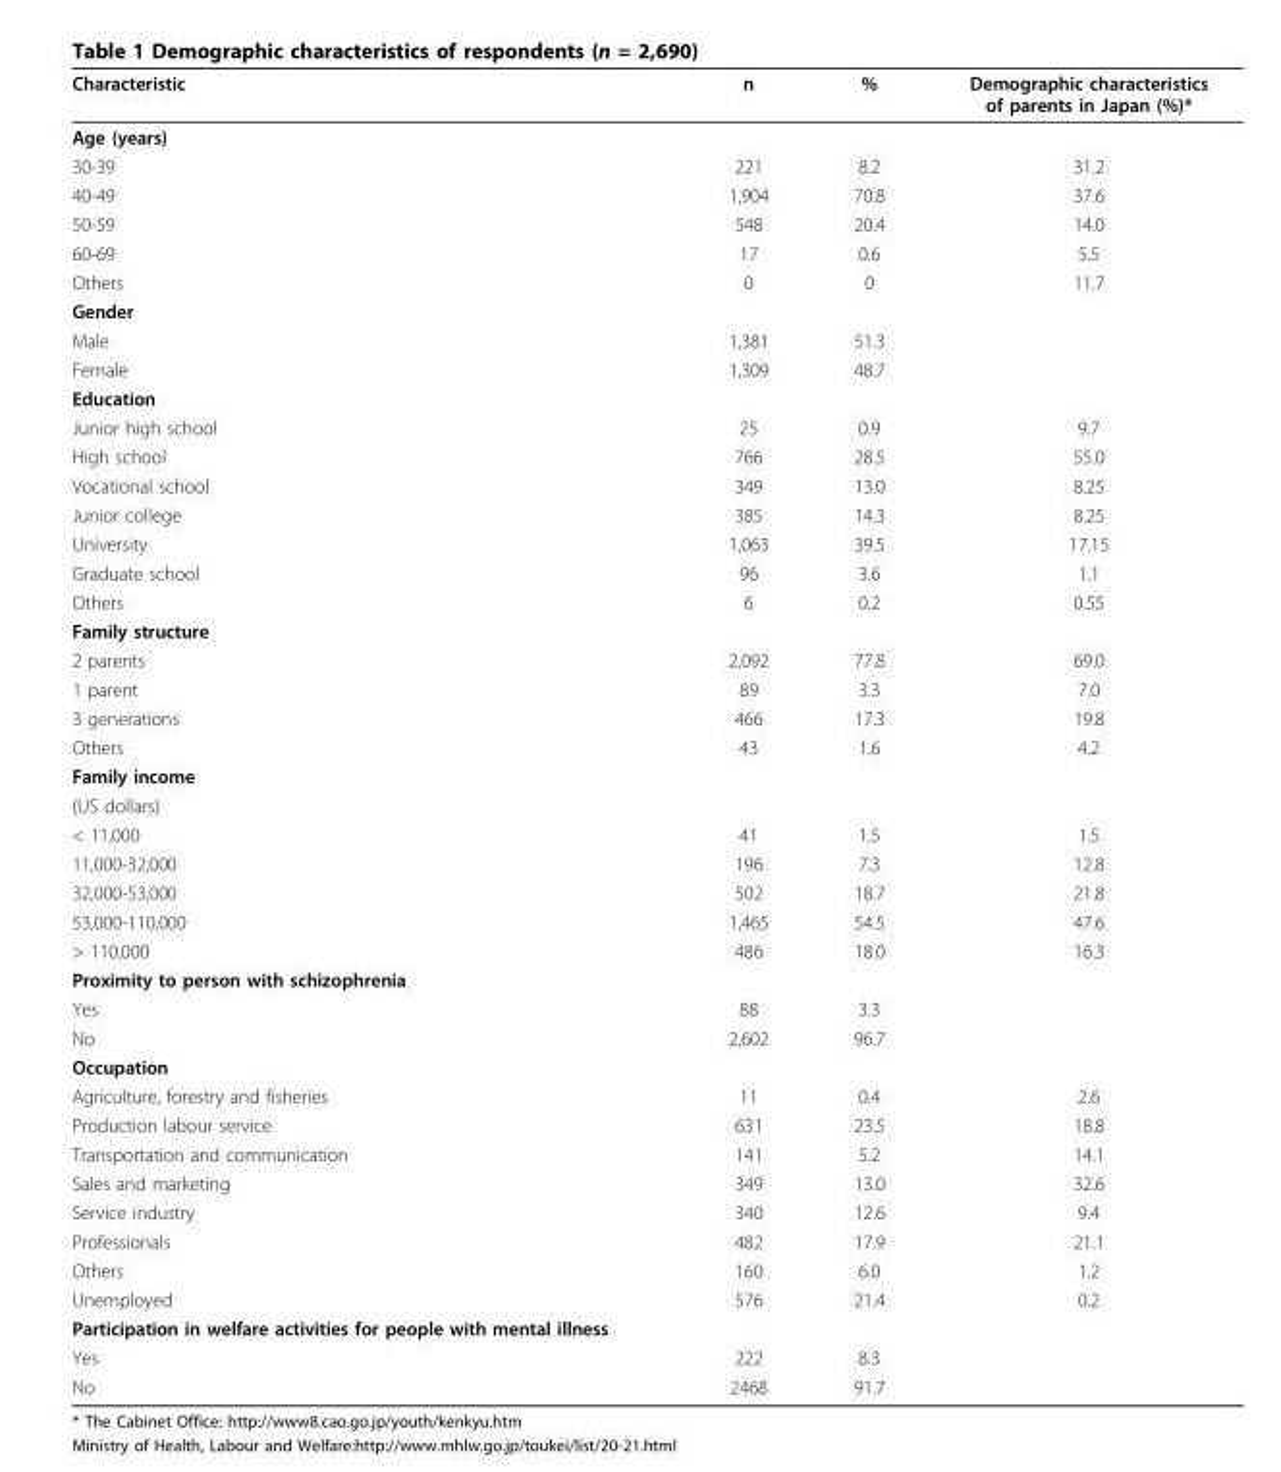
<table><thead><tr><td>Characteristic</td><td>n</td><td>%</td><td>Demographic characteristics of parents in Japan (%)*</td></tr></thead><tbody><tr><td colspan="4">Age (years)</td></tr><tr><td>30-39</td><td>221</td><td>8.2</td><td>31.2</td></tr><tr><td>40-49</td><td>1,904</td><td>70.8</td><td>37.6</td></tr><tr><td>50-59</td><td>548</td><td>20.4</td><td>14.0</td></tr><tr><td>60-69</td><td>17</td><td>0.6</td><td>5.5</td></tr><tr><td>Others</td><td>0</td><td>0</td><td>11.7</td></tr><tr><td colspan="4">Gender</td></tr><tr><td>Male</td><td>1,381</td><td>51.3</td><td></td></tr><tr><td>Female</td><td>1,309</td><td>48.7</td><td></td></tr><tr><td colspan="4">Education</td></tr><tr><td>Junior high school</td><td>25</td><td>0.9</td><td>9.7</td></tr><tr><td>High school</td><td>766</td><td>28.5</td><td>55.0</td></tr><tr><td>Vocational school</td><td>349</td><td>13.0</td><td>8.25</td></tr><tr><td>Junior college</td><td>385</td><td>14.3</td><td>8.25</td></tr><tr><td>University</td><td>1,063</td><td>39.5</td><td>17.15</td></tr><tr><td>Graduate school</td><td>96</td><td>3.6</td><td>1.1</td></tr><tr><td>Others</td><td>6</td><td>0.2</td><td>0.55</td></tr><tr><td colspan="4">Family structure</td></tr><tr><td>2 parents</td><td>2,092</td><td>77.8</td><td>69.0</td></tr><tr><td>1 parent</td><td>89</td><td>3.3</td><td>7.0</td></tr><tr><td>3 generations</td><td>466</td><td>17.3</td><td>19.8</td></tr><tr><td>Others</td><td>43</td><td>1.6</td><td>4.2</td></tr><tr><td colspan="4">Family income</td></tr><tr><td colspan="4">(US dollars)</td></tr><tr><td>&lt; 11,000</td><td>41</td><td>1.5</td><td>1.5</td></tr><tr><td>11,000-32,000</td><td>196</td><td>7.3</td><td>12.8</td></tr><tr><td>32,000-53,000</td><td>502</td><td>18.7</td><td>21.8</td></tr><tr><td>53,000-110,000</td><td>1,465</td><td>54.5</td><td>47.6</td></tr><tr><td>&gt; 110,000</td><td>486</td><td>18.0</td><td>16.3</td></tr><tr><td colspan="4">Proximity to person with schizophrenia</td></tr><tr><td>Yes</td><td>88</td><td>3.3</td><td></td></tr><tr><td>No</td><td>2,602</td><td>96.7</td><td></td></tr><tr><td colspan="4">Occupation</td></tr><tr><td>Agriculture, forestry and fisheries</td><td>11</td><td>0.4</td><td>2.6</td></tr><tr><td>Production labour service</td><td>631</td><td>23.5</td><td>18.8</td></tr><tr><td>Transportation and communication</td><td>141</td><td>5.2</td><td>14.1</td></tr><tr><td>Sales and marketing</td><td>349</td><td>13.0</td><td>32.6</td></tr><tr><td>Service industry</td><td>340</td><td>12.6</td><td>9.4</td></tr><tr><td>Professionals</td><td>482</td><td>17.9</td><td>21.1</td></tr><tr><td>Others</td><td>160</td><td>6.0</td><td>1.2</td></tr><tr><td>Unemployed</td><td>576</td><td>21.4</td><td>0.2</td></tr><tr><td colspan="4">Participation in welfare activities for people with mental illness</td></tr><tr><td>Yes</td><td>222</td><td>8.3</td><td></td></tr><tr><td>No</td><td>2468</td><td>91.7</td><td></td></tr></tbody></table>